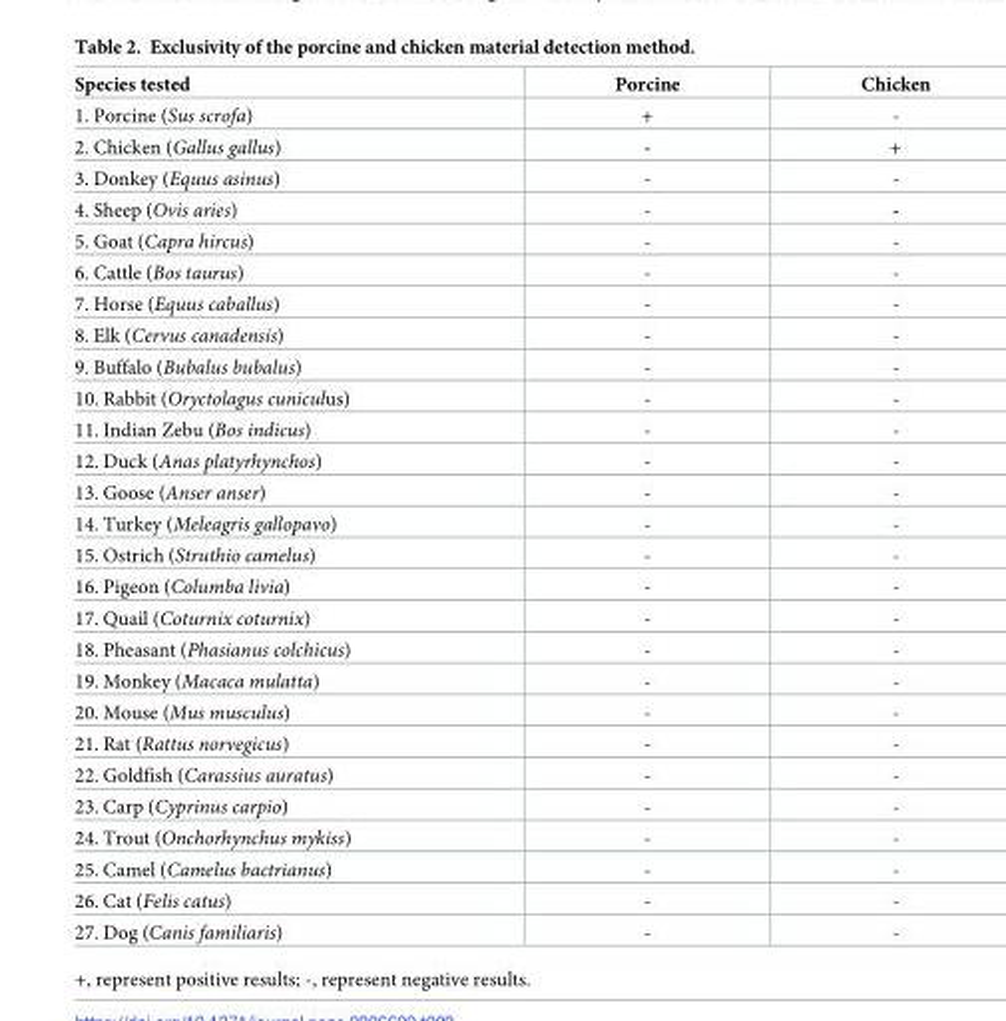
<table><thead><tr><td>Species tested</td><td>Porcine</td><td>Chicken</td></tr></thead><tbody><tr><td>1. Porcine (Sus scrofa)</td><td>+</td><td>-</td></tr><tr><td>2. Chicken (Gallus gallus)</td><td>-</td><td>+</td></tr><tr><td>3. Donkey (Equus asinus)</td><td>-</td><td>-</td></tr><tr><td>4. Sheep (Ovis aries)</td><td>-</td><td>-</td></tr><tr><td>5. Goat (Capra hircus)</td><td>-</td><td>-</td></tr><tr><td>6. Cattle (Bos taurus)</td><td>-</td><td>-</td></tr><tr><td>7. Horse (Equus caballus)</td><td>-</td><td>-</td></tr><tr><td>8. Elk (Cervus canadensis)</td><td>-</td><td>-</td></tr><tr><td>9. Buffalo (Bubalus bubalus)</td><td>-</td><td>-</td></tr><tr><td>10. Rabbit (Oryctolagus cuniculus)</td><td>-</td><td>-</td></tr><tr><td>11. Indian Zebu (Bos indicus)</td><td>-</td><td>-</td></tr><tr><td>12. Duck (Anas platyrhynchos)</td><td>-</td><td>-</td></tr><tr><td>13. Goose (Anser anser)</td><td>-</td><td>-</td></tr><tr><td>14. Turkey (Meleagris gallopavo)</td><td>-</td><td>-</td></tr><tr><td>15. Ostrich (Struthio camelus)</td><td>-</td><td>-</td></tr><tr><td>16. Pigeon (Columba livia)</td><td>-</td><td>-</td></tr><tr><td>17. Quail (Coturnix coturnix)</td><td>-</td><td>-</td></tr><tr><td>18. Pheasant (Phasianus colchicus)</td><td>-</td><td>-</td></tr><tr><td>19. Monkey (Macaca mulatta)</td><td>-</td><td>-</td></tr><tr><td>20. Mouse (Mus musculus)</td><td>-</td><td>-</td></tr><tr><td>21. Rat (Rattus norvegicus)</td><td>-</td><td>-</td></tr><tr><td>22. Goldfish (Carassius auratus)</td><td>-</td><td>-</td></tr><tr><td>23. Carp (Cyprinus carpio)</td><td>-</td><td>-</td></tr><tr><td>24. Trout (Onchorhynchus mykiss)</td><td>-</td><td>-</td></tr><tr><td>25. Camel (Camelus bactrianus)</td><td>-</td><td>-</td></tr><tr><td>26. Cat (Felis catus)</td><td>-</td><td>-</td></tr><tr><td>27. Dog (Canis familiaris)</td><td>-</td><td>-</td></tr></tbody></table>